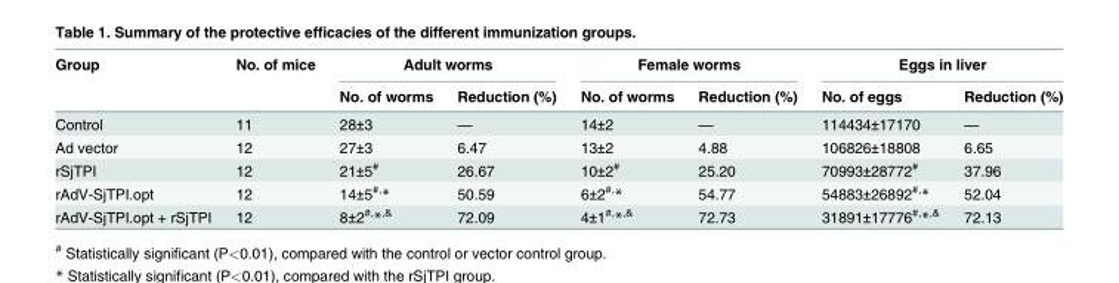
<table><thead><tr><td rowspan="2">Group</td><td rowspan="2">No. of mice</td><td colspan="2">Adult worms</td><td colspan="2">Female worms</td><td colspan="2">Eggs in liver</td></tr><tr><td>No. of worms</td><td>Reduction (%)</td><td>No. of worms</td><td>Reduction (%)</td><td>No. of eggs</td><td>Reduction (%)</td></tr></thead><tbody><tr><td>Control</td><td>11</td><td>28±3</td><td>—</td><td>14±2</td><td>—</td><td>114434±17170</td><td>—</td></tr><tr><td>Ad vector</td><td>12</td><td>27±3</td><td>6.47</td><td>13±2</td><td>4.88</td><td>106826±18808</td><td>6.65</td></tr><tr><td>rSjTPI</td><td>12</td><td>21±5<sup>#</sup></td><td>26.67</td><td>10±2<sup>#</sup></td><td>25.20</td><td>70993±28772<sup>#</sup></td><td>37.96</td></tr><tr><td>rAdV-SjTPI.opt</td><td>12</td><td>14±5<sup>#,</sup>*</td><td>50.59</td><td>6±2<sup>#,</sup>*</td><td>54.77</td><td>54883±26892<sup>#,</sup>*</td><td>52.04</td></tr><tr><td>rAdV-SjTPI.opt + rSjTPI</td><td>12</td><td>8±2<sup>#,</sup>*<sup>,&amp;</sup></td><td>72.09</td><td>4±1<sup>#,</sup>*<sup>,&amp;</sup></td><td>72.73</td><td>31891±17776<sup>#,</sup>*<sup>,&amp;</sup></td><td>72.13</td></tr></tbody></table>